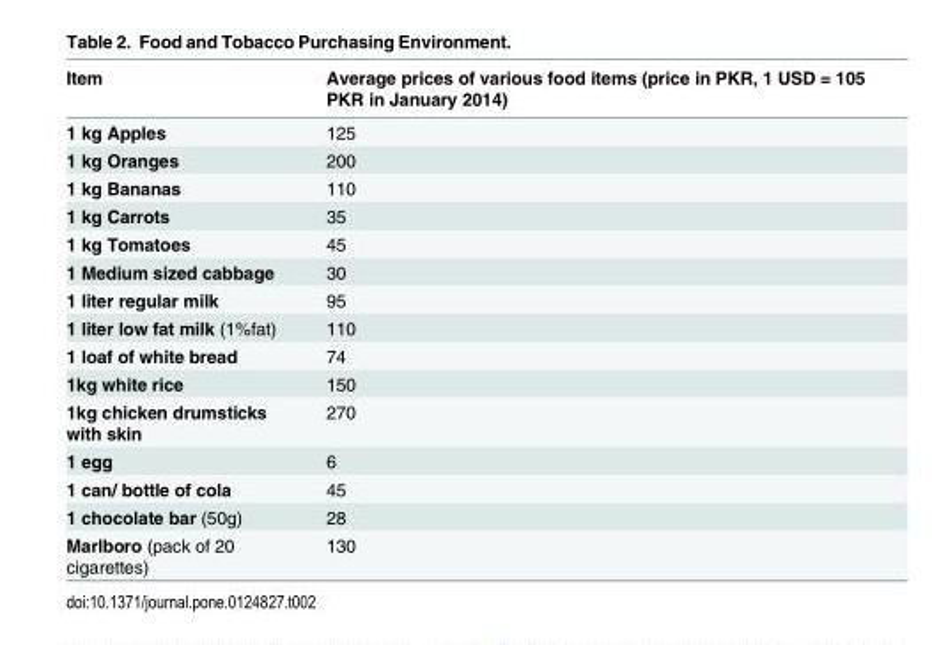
<table><thead><tr><td>Item</td><td>Average prices of various food items (price in PKR, 1 USD = 105 PKR in January 2014)</td></tr></thead><tbody><tr><td>1 kg Apples</td><td>125</td></tr><tr><td>1 kg Oranges</td><td>200</td></tr><tr><td>1 kg Bananas</td><td>110</td></tr><tr><td>1 kg Carrots</td><td>35</td></tr><tr><td>1 kg Tomatoes</td><td>45</td></tr><tr><td>1 Medium sized cabbage</td><td>30</td></tr><tr><td>1 liter regular milk</td><td>95</td></tr><tr><td>1 liter low fat milk (1%fat)</td><td>110</td></tr><tr><td>1 loaf of white bread</td><td>74</td></tr><tr><td>1kg white rice</td><td>150</td></tr><tr><td>1kg chicken drumsticks with skin</td><td>270</td></tr><tr><td>1 egg</td><td>6</td></tr><tr><td>1 can/ bottle of cola</td><td>45</td></tr><tr><td>1 chocolate bar (50g)</td><td>28</td></tr><tr><td>Marlboro (pack of 20 cigarettes)</td><td>130</td></tr></tbody></table>